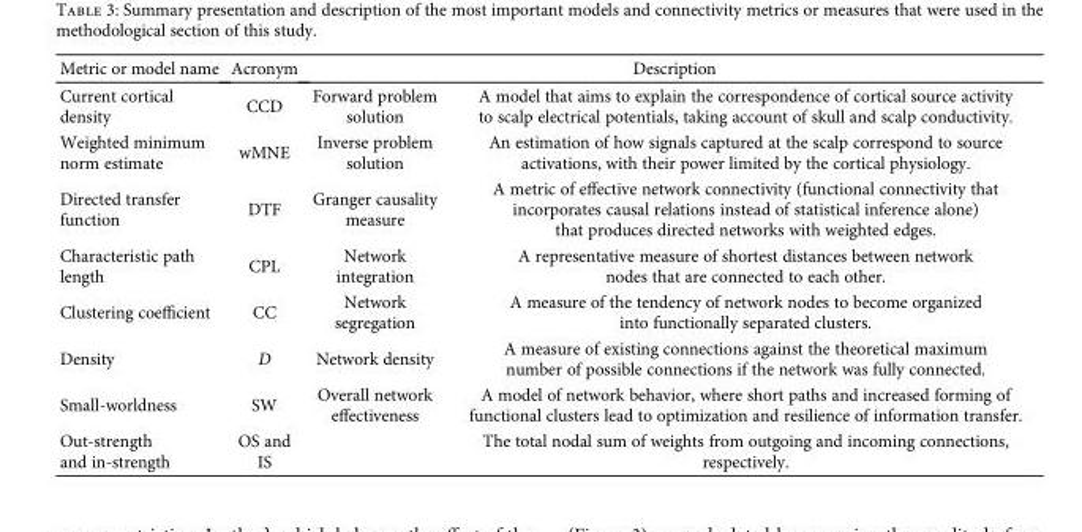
<table><thead><tr><td rowspan="2">Metric or model name Current cortical density</td><td rowspan="2">Acronym CCD</td><td colspan="2">Description</td></tr><tr><td>Forward problem solution</td><td>A model that aims to explain the correspondence of cortical source activity to scalp electrical potentials, taking account of skull and scalp conductivity.</td></tr></thead><tbody><tr><td>Weighted minimum norm estimate</td><td>wMNE</td><td>Inverse problem solution</td><td>An estimation of how signals captured at the scalp correspond to source activations, with their power limited by the cortical physiology.</td></tr><tr><td>Directed transfer function</td><td>DTF</td><td>Granger causality measure</td><td>A metric of effective network connectivity (functional connectivity that incorporates causal relations instead of statistical inference alone) that produces directed networks with weighted edges.</td></tr><tr><td>Characteristic path length</td><td>CPL</td><td>Network integration</td><td>A representative measure of shortest distances between network nodes that are connected to each other.</td></tr><tr><td>Clustering coefficient</td><td>CC</td><td>Network segregation</td><td>A measure of the tendency of network nodes to become organized into functionally separated clusters.</td></tr><tr><td>Density</td><td>D</td><td>Network density</td><td>A measure of existing connections against the theoretical maximum number of possible connections if the network was fully connected.</td></tr><tr><td>Small-worldness</td><td>SW</td><td>Overall network effectiveness</td><td>A model of network behavior, where short paths and increased forming of functional clusters lead to optimization and resilience of information transfer.</td></tr><tr><td>Out-strength and in-strength</td><td>OS and IS</td><td></td><td>The total nodal sum of weights from outgoing and incoming connections, respectively.</td></tr></tbody></table>